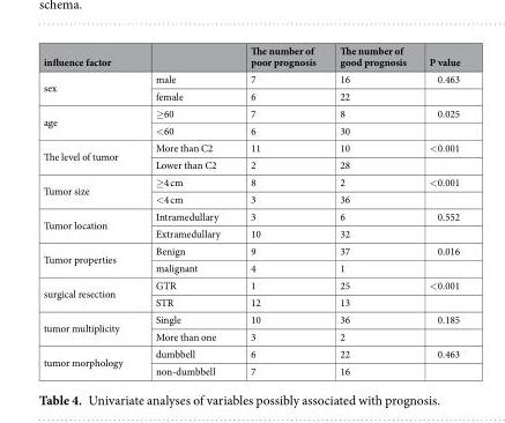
<table><thead><tr><td>influence factor</td><td></td><td>The number of poor prognosis</td><td>The number of good prognosis</td><td>P value</td></tr></thead><tbody><tr><td rowspan="2">sex</td><td>male</td><td>7</td><td>16</td><td>0.463</td></tr><tr><td>female</td><td>6</td><td>22</td><td></td></tr><tr><td rowspan="2">age</td><td>≥60</td><td>7</td><td>8</td><td>0.025</td></tr><tr><td>&lt;60</td><td>6</td><td>30</td><td></td></tr><tr><td rowspan="2">The level of tumor</td><td>More than C2</td><td>11</td><td>10</td><td>&lt;0.001</td></tr><tr><td>Lower than C2</td><td>2</td><td>28</td><td></td></tr><tr><td rowspan="2">Tumor size</td><td>≥4 cm</td><td>8</td><td>2</td><td>&lt;0.001</td></tr><tr><td>&lt;4 cm</td><td>3</td><td>36</td><td></td></tr><tr><td rowspan="2">Tumor location</td><td>Intramedullary</td><td>3</td><td>6</td><td>0.552</td></tr><tr><td>Extramedullary</td><td>10</td><td>32</td><td></td></tr><tr><td rowspan="2">Tumor properties</td><td>Benign</td><td>9</td><td>37</td><td>0.016</td></tr><tr><td>malignant</td><td>4</td><td>1</td><td></td></tr><tr><td rowspan="2">surgical resection</td><td>GTR</td><td>1</td><td>25</td><td>&lt;0.001</td></tr><tr><td>STR</td><td>12</td><td>13</td><td></td></tr><tr><td rowspan="2">tumor multiplicity</td><td>Single</td><td>10</td><td>36</td><td>0.185</td></tr><tr><td>More than one</td><td>3</td><td>2</td><td></td></tr><tr><td rowspan="2">tumor morphology</td><td>dumbbell</td><td>6</td><td>22</td><td>0.463</td></tr><tr><td>non-dumbbell</td><td>7</td><td>16</td><td></td></tr></tbody></table>